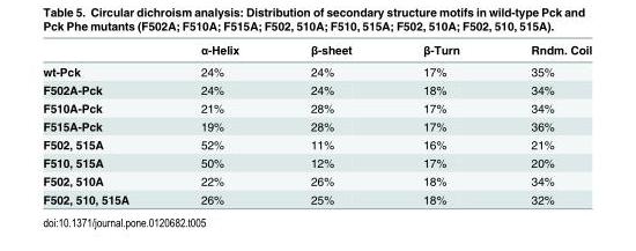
<table><thead><tr><td></td><td>α-Helix</td><td>β-sheet</td><td>β-Turn</td><td>Rndm. Coil</td></tr></thead><tbody><tr><td>wt-Pck</td><td>24%</td><td>24%</td><td>17%</td><td>35%</td></tr><tr><td>F502A-Pck</td><td>24%</td><td>24%</td><td>18%</td><td>34%</td></tr><tr><td>F510A-Pck</td><td>21%</td><td>28%</td><td>17%</td><td>34%</td></tr><tr><td>F515A-Pck</td><td>19%</td><td>28%</td><td>17%</td><td>36%</td></tr><tr><td>F502, 515A</td><td>52%</td><td>11%</td><td>16%</td><td>21%</td></tr><tr><td>F510, 515A</td><td>50%</td><td>12%</td><td>17%</td><td>20%</td></tr><tr><td>F502, 510A</td><td>22%</td><td>26%</td><td>18%</td><td>34%</td></tr><tr><td>F502, 510, 515A</td><td>26%</td><td>25%</td><td>18%</td><td>32%</td></tr></tbody></table>